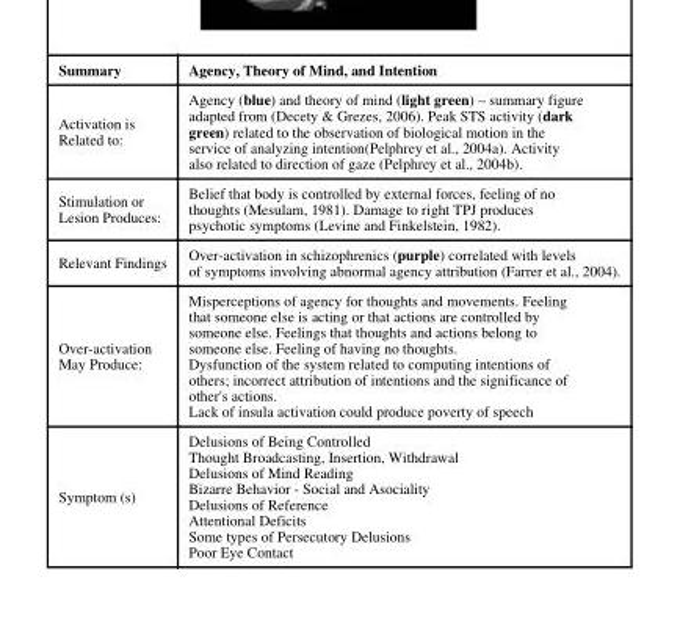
<table><thead><tr><td>Summary</td><td>Agency, Theory of Mind, and Intention</td></tr></thead><tbody><tr><td>Activation is Related to:</td><td>Agency (blue) and theory of mind (light green) – summary figure adapted from (Decety &amp; Grezes, 2006). Peak STS activity (dark green) related to the observation of biological motion in the service of analyzing intention(Pelphrey et al., 2004a). Activity also related to direction of gaze (Pelphrey et al., 2004b).</td></tr><tr><td>Stimulation or Lesion Produces:</td><td>Belief that body is controlled by external forces, feeling of no thoughts (Mesulam, 1981). Damage to right TPJ produces psychotic symptoms (Levine and Finkelstein, 1982).</td></tr><tr><td>Relevant Findings</td><td>Over-activation in schizophrenics (purple) correlated with levels of symptoms involving abnormal agency attribution (Farrer et al., 2004).</td></tr><tr><td>Over-activation May Produce:</td><td>Misperceptions of agency for thoughts and movements. Feeling that someone else is acting or that actions are controlled by someone else. Feelings that thoughts and actions belong to someone else. Feeling of having no thoughts. Dysfunction of the system related to computing intentions of others; incorrect attribution of intentions and the significance of other&#x27;s actions. Lack of insula activation could produce poverty of speech</td></tr><tr><td>Symptom (s)</td><td>Delusions of Being Controlled Thought Broadcasting, Insertion, Withdrawal Delusions of Mind Reading Bizarre Behavior - Social and Asociality Delusions of Reference Attentional Deficits Some types of Persecutory Delusions Poor Eye Contact</td></tr></tbody></table>